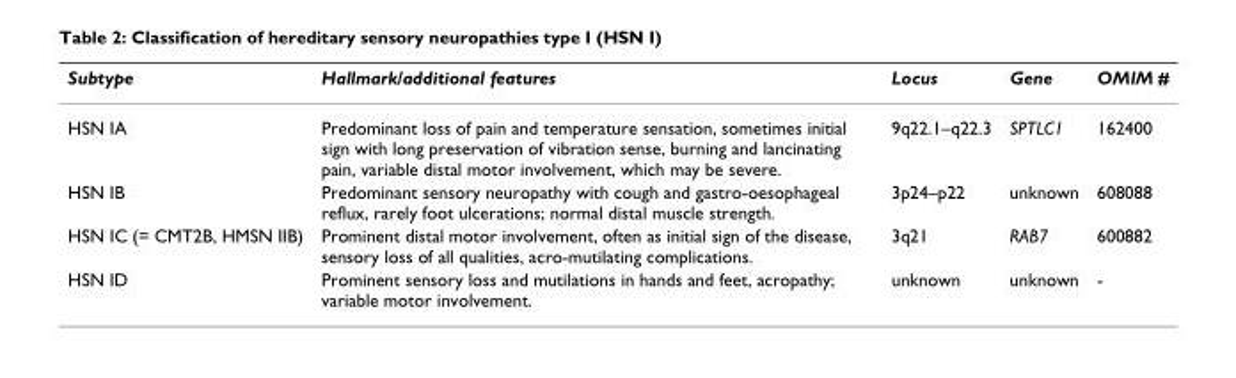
<table><thead><tr><td>Subtype</td><td>Hallmark/additional features</td><td>Locus</td><td>Gene</td><td>OMIM #</td></tr></thead><tbody><tr><td>HSN IA</td><td>Predominant loss of pain and temperature sensation, sometimes initial sign with long preservation of vibration sense, burning and lancinating pain, variable distal motor involvement, which may be severe.</td><td>9q22.1–q22.3</td><td>SPTLC1</td><td>162400</td></tr><tr><td>HSN IB</td><td>Predominant sensory neuropathy with cough and gastro-oesophageal reflux, rarely foot ulcerations; normal distal muscle strength.</td><td>3p24–p22</td><td>unknown</td><td>608088</td></tr><tr><td>HSN IC (= CMT2B, HMSN IIB)</td><td>Prominent distal motor involvement, often as initial sign of the disease, sensory loss of all qualities, acro-mutilating complications.</td><td>3q21</td><td>RAB7</td><td>600882</td></tr><tr><td>HSN ID</td><td>Prominent sensory loss and mutilations in hands and feet, acropathy; variable motor involvement.</td><td>unknown</td><td>unknown</td><td>-</td></tr></tbody></table>